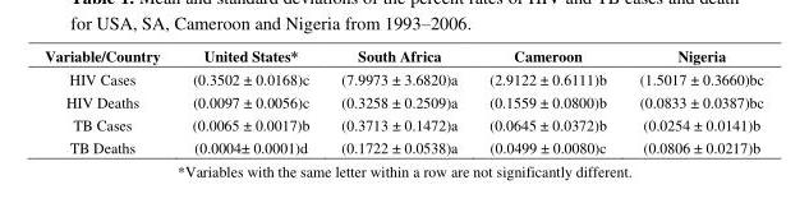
<table><thead><tr><td>Variable/Country</td><td>United States*</td><td>South Africa</td><td>Cameroon</td><td>Nigeria</td></tr></thead><tbody><tr><td>HIV Cases</td><td>(0.3502 ± 0.0168)c</td><td>(7.9973 ± 3.6820)a</td><td>(2.9122 ± 0.6111)b</td><td>(1.5017 ± 0.3660)bc</td></tr><tr><td>HIV Deaths</td><td>(0.0097 ± 0.0056)c</td><td>(0.3258 ± 0.2509)a</td><td>(0.1559 ± 0.0800)b</td><td>(0.0833 ± 0.0387)bc</td></tr><tr><td>TB Cases</td><td>(0.0065 ± 0.0017)b</td><td>(0.3713 ± 0.1472)a</td><td>(0.0645 ± 0.0372)b</td><td>(0.0254 ± 0.0141)b</td></tr><tr><td>TB Deaths</td><td>(0.0004± 0.0001)d</td><td>(0.1722 ± 0.0538)a</td><td>(0.0499 ± 0.0080)c</td><td>(0.0806 ± 0.0217)b</td></tr></tbody></table>